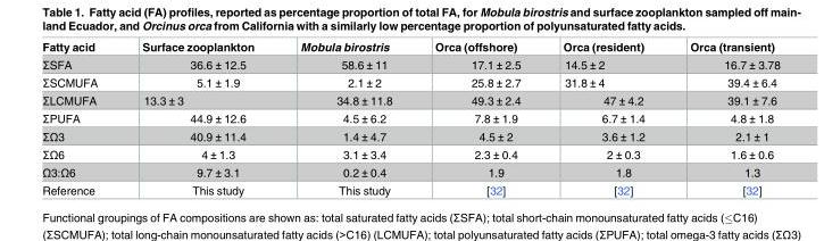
<table><thead><tr><td>Fatty acid</td><td>Surface zooplankton</td><td>Mobula birostris</td><td>Orca (offshore)</td><td>Orca (resident)</td><td>Orca (transient)</td></tr></thead><tbody><tr><td>ΣSFA</td><td>36.6 ± 12.5</td><td>58.6 ± 11</td><td>17.1 ± 2.5</td><td>14.5 ± 2</td><td>16.7 ± 3.78</td></tr><tr><td>ΣSCMUFA</td><td>5.1 ± 1.9</td><td>2.1 ± 2</td><td>25.8 ± 2.7</td><td>31.8 ± 4</td><td>39.4 ± 6.4</td></tr><tr><td>ΣLCMUFA</td><td>13.3 ± 3</td><td>34.8 ± 11.8</td><td>49.3 ± 2.4</td><td>47 ± 4.2</td><td>39.1 ± 7.6</td></tr><tr><td>ΣPUFA</td><td>44.9 ± 12.6</td><td>4.5 ± 6.2</td><td>7.8 ± 1.9</td><td>6.7 ± 1.4</td><td>4.8 ± 1.8</td></tr><tr><td>ΣΩ3</td><td>40.9 ± 11.4</td><td>1.4 ± 4.7</td><td>4.5 ± 2</td><td>3.6 ± 1.2</td><td>2.1 ± 1</td></tr><tr><td>ΣΩ6</td><td>4 ± 1.3</td><td>3.1 ± 3.4</td><td>2.3 ± 0.4</td><td>2 ± 0.3</td><td>1.6 ± 0.6</td></tr><tr><td>Ω3:Ω6</td><td>9.7 ± 3.1</td><td>0.2 ± 0.4</td><td>1.9</td><td>1.8</td><td>1.3</td></tr><tr><td>Reference</td><td>This study</td><td>This study</td><td>[32]</td><td>[32]</td><td>[32]</td></tr></tbody></table>